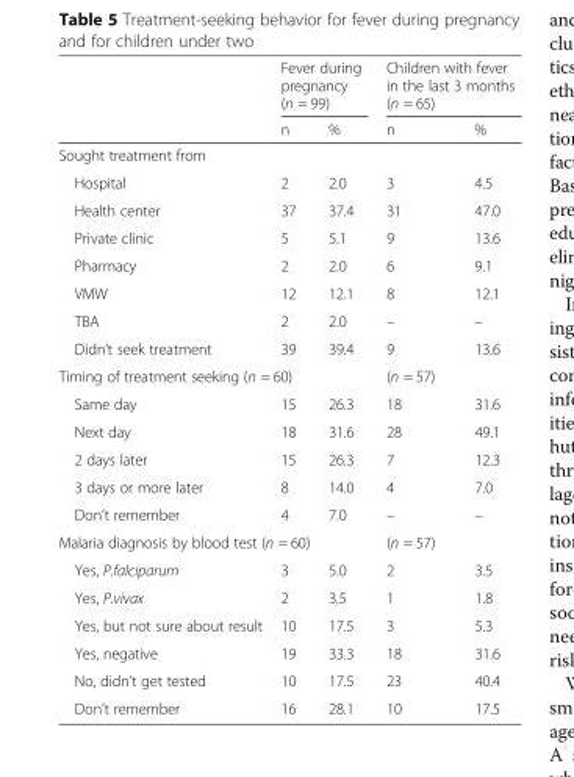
<table><thead><tr><td rowspan="2"></td><td colspan="2">Fever during pregnancy (n = 99)</td><td colspan="2">Children with fever in the last 3 months (n = 65)</td></tr><tr><td>n</td><td>%</td><td>n</td><td>%</td></tr></thead><tbody><tr><td colspan="5">Sought treatment from</td></tr><tr><td>Hospital</td><td>2</td><td>2.0</td><td>3</td><td>4.5</td></tr><tr><td>Health center</td><td>37</td><td>37.4</td><td>31</td><td>47.0</td></tr><tr><td>Private clinic</td><td>5</td><td>5.1</td><td>9</td><td>13.6</td></tr><tr><td>Pharmacy</td><td>2</td><td>2.0</td><td>6</td><td>9.1</td></tr><tr><td>VMW</td><td>12</td><td>12.1</td><td>8</td><td>12.1</td></tr><tr><td>TBA</td><td>2</td><td>2.0</td><td>–</td><td>–</td></tr><tr><td>Didn’t seek treatment</td><td>39</td><td>39.4</td><td>9</td><td>13.6</td></tr><tr><td colspan="3">Timing of treatment seeking (n = 60)</td><td>(n = 57)</td><td></td></tr><tr><td>Same day</td><td>15</td><td>26.3</td><td>18</td><td>31.6</td></tr><tr><td>Next day</td><td>18</td><td>31.6</td><td>28</td><td>49.1</td></tr><tr><td>2 days later</td><td>15</td><td>26.3</td><td>7</td><td>12.3</td></tr><tr><td>3 days or more later</td><td>8</td><td>14.0</td><td>4</td><td>7.0</td></tr><tr><td>Don’t remember</td><td>4</td><td>7.0</td><td>–</td><td>–</td></tr><tr><td colspan="3">Malaria diagnosis by blood test (n = 60)</td><td>(n = 57)</td><td></td></tr><tr><td>Yes, P.falciparum</td><td>3</td><td>5.0</td><td>2</td><td>3.5</td></tr><tr><td>Yes, P.vivax</td><td>2</td><td>3.5</td><td>1</td><td>1.8</td></tr><tr><td>Yes, but not sure about result</td><td>10</td><td>17.5</td><td>3</td><td>5.3</td></tr><tr><td>Yes, negative</td><td>19</td><td>33.3</td><td>18</td><td>31.6</td></tr><tr><td>No, didn’t get tested</td><td>10</td><td>17.5</td><td>23</td><td>40.4</td></tr><tr><td>Don’t remember</td><td>16</td><td>28.1</td><td>10</td><td>17.5</td></tr></tbody></table>